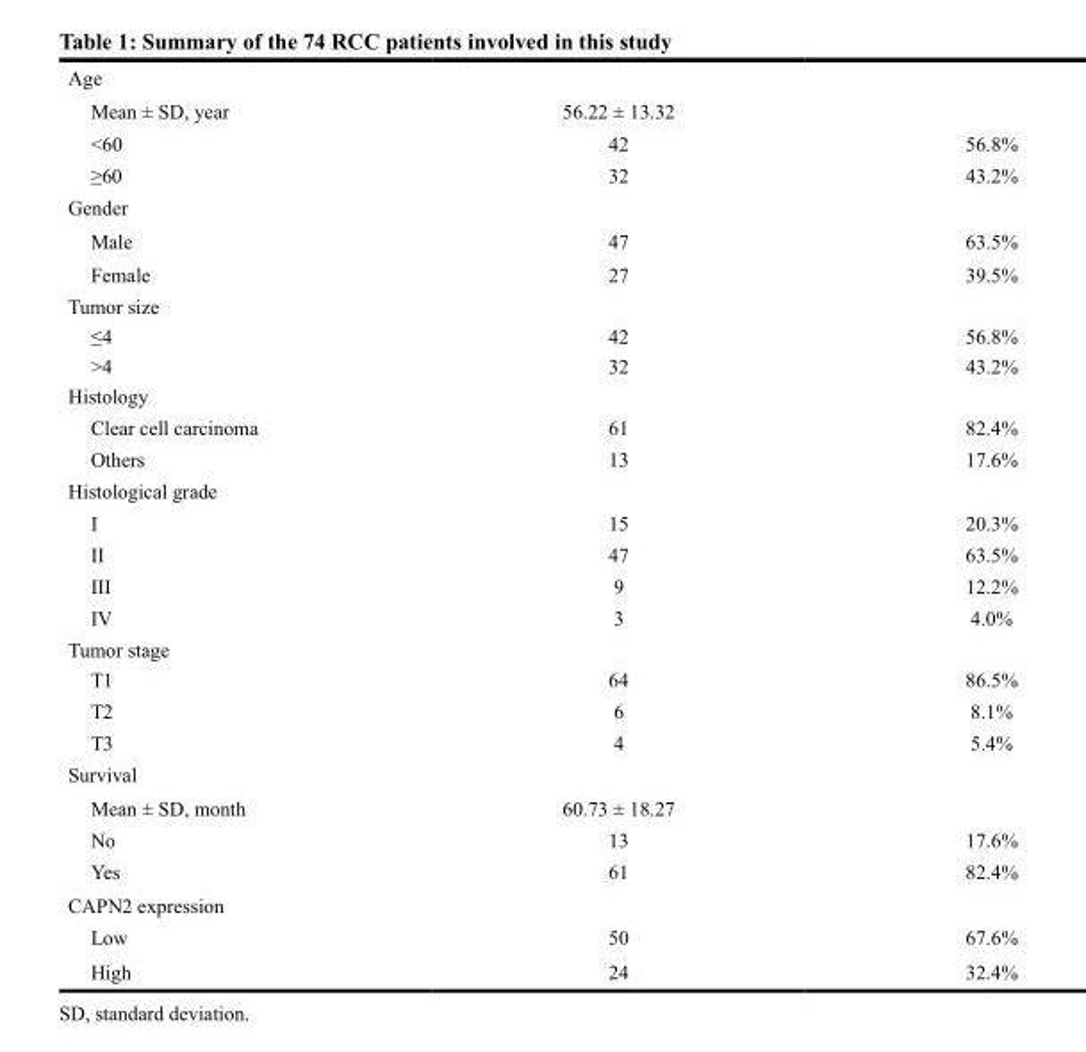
<table><tbody><tr><td colspan="3">Age</td></tr><tr><td>Mean ± SD, year</td><td>56.22 ± 13.32</td><td></td></tr><tr><td>&lt;60</td><td>42</td><td>56.8%</td></tr><tr><td>≥60</td><td>32</td><td>43.2%</td></tr><tr><td colspan="3">Gender</td></tr><tr><td>Male</td><td>47</td><td>63.5%</td></tr><tr><td>Female</td><td>27</td><td>39.5%</td></tr><tr><td colspan="3">Tumor size</td></tr><tr><td>≤4</td><td>42</td><td>56.8%</td></tr><tr><td>&gt;4</td><td>32</td><td>43.2%</td></tr><tr><td colspan="3">Histology</td></tr><tr><td>Clear cell carcinoma</td><td>61</td><td>82.4%</td></tr><tr><td>Others</td><td>13</td><td>17.6%</td></tr><tr><td colspan="3">Histological grade</td></tr><tr><td>I</td><td>15</td><td>20.3%</td></tr><tr><td>II</td><td>47</td><td>63.5%</td></tr><tr><td>III</td><td>9</td><td>12.2%</td></tr><tr><td>IV</td><td>3</td><td>4.0%</td></tr><tr><td colspan="3">Tumor stage</td></tr><tr><td>T1</td><td>64</td><td>86.5%</td></tr><tr><td>T2</td><td>6</td><td>8.1%</td></tr><tr><td>T3</td><td>4</td><td>5.4%</td></tr><tr><td colspan="3">Survival</td></tr><tr><td>Mean ± SD, month</td><td>60.73 ± 18.27</td><td></td></tr><tr><td>No</td><td>13</td><td>17.6%</td></tr><tr><td>Yes</td><td>61</td><td>82.4%</td></tr><tr><td colspan="3">CAPN2 expression</td></tr><tr><td>Low</td><td>50</td><td>67.6%</td></tr><tr><td>High</td><td>24</td><td>32.4%</td></tr></tbody></table>